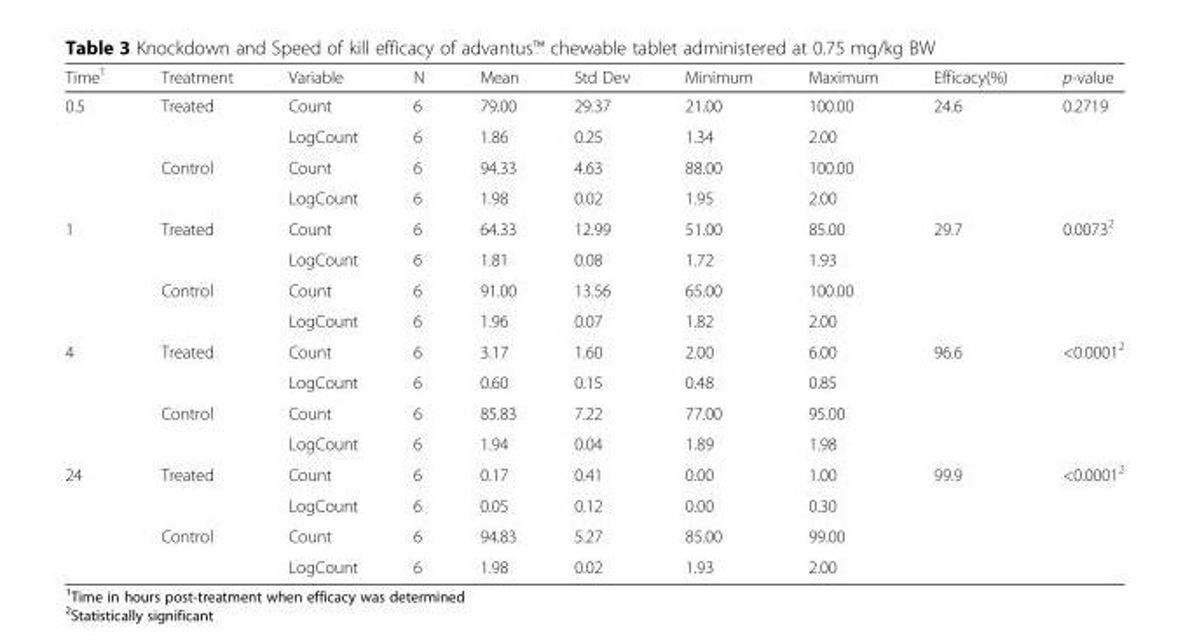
<table><thead><tr><td>Time<sup>1</sup></td><td>Treatment</td><td>Variable</td><td>N</td><td>Mean</td><td>Std Dev</td><td>Minimum</td><td>Maximum</td><td>Efficacy(%)</td><td>p-value</td></tr></thead><tbody><tr><td rowspan="4">0.5</td><td rowspan="2">Treated</td><td>Count</td><td>6</td><td>79.00</td><td>29.37</td><td>21.00</td><td>100.00</td><td rowspan="4">24.6</td><td rowspan="4">0.2719</td></tr><tr><td>LogCount</td><td>6</td><td>1.86</td><td>0.25</td><td>1.34</td><td>2.00</td></tr><tr><td rowspan="2">Control</td><td>Count</td><td>6</td><td>94.33</td><td>4.63</td><td>88.00</td><td>100.00</td></tr><tr><td>LogCount</td><td>6</td><td>1.98</td><td>0.02</td><td>1.95</td><td>2.00</td></tr><tr><td rowspan="4">1</td><td rowspan="2">Treated</td><td>Count</td><td>6</td><td>64.33</td><td>12.99</td><td>51.00</td><td>85.00</td><td rowspan="4">29.7</td><td rowspan="4">0.0073<sup>2</sup></td></tr><tr><td>LogCount</td><td>6</td><td>1.81</td><td>0.08</td><td>1.72</td><td>1.93</td></tr><tr><td rowspan="2">Control</td><td>Count</td><td>6</td><td>91.00</td><td>13.56</td><td>65.00</td><td>100.00</td></tr><tr><td>LogCount</td><td>6</td><td>1.96</td><td>0.07</td><td>1.82</td><td>2.00</td></tr><tr><td rowspan="4">4</td><td rowspan="2">Treated</td><td>Count</td><td>6</td><td>3.17</td><td>1.60</td><td>2.00</td><td>6.00</td><td rowspan="4">96.6</td><td rowspan="4">&lt;0.0001<sup>2</sup></td></tr><tr><td>LogCount</td><td>6</td><td>0.60</td><td>0.15</td><td>0.48</td><td>0.85</td></tr><tr><td rowspan="2">Control</td><td>Count</td><td>6</td><td>85.83</td><td>7.22</td><td>77.00</td><td>95.00</td></tr><tr><td>LogCount</td><td>6</td><td>1.94</td><td>0.04</td><td>1.89</td><td>1.98</td></tr><tr><td rowspan="4">24</td><td rowspan="2">Treated</td><td>Count</td><td>6</td><td>0.17</td><td>0.41</td><td>0.00</td><td>1.00</td><td rowspan="4">99.9</td><td rowspan="4">&lt;0.0001<sup>2</sup></td></tr><tr><td>LogCount</td><td>6</td><td>0.05</td><td>0.12</td><td>0.00</td><td>0.30</td></tr><tr><td rowspan="2">Control</td><td>Count</td><td>6</td><td>94.83</td><td>5.27</td><td>85.00</td><td>99.00</td></tr><tr><td>LogCount</td><td>6</td><td>1.98</td><td>0.02</td><td>1.93</td><td>2.00</td></tr></tbody></table>